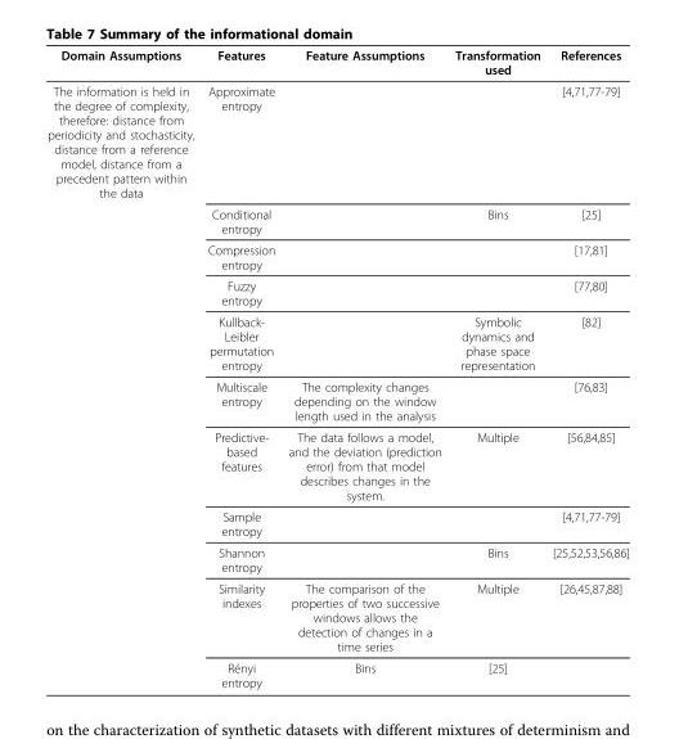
<table><thead><tr><td>Domain Assumptions</td><td>Features</td><td>Feature Assumptions</td><td>Transformation used</td><td>References</td></tr></thead><tbody><tr><td rowspan="11">The information is held in the degree of complexity, therefore: distance from periodicity and stochasticity, distance from a reference model, distance from a precedent pattern within the data</td><td>Approximate entropy</td><td></td><td></td><td>[4,71,77-79]</td></tr><tr><td>Conditional entropy</td><td></td><td>Bins</td><td>[25]</td></tr><tr><td>Compression entropy</td><td></td><td></td><td>[17,81]</td></tr><tr><td>Fuzzy entropy</td><td></td><td></td><td>[77,80]</td></tr><tr><td>Kullback- Leibler permutation entropy</td><td></td><td>Symbolic dynamics and phase space representation</td><td>[82]</td></tr><tr><td>Multiscale entropy</td><td>The complexity changes depending on the window length used in the analysis</td><td></td><td>[76,83]</td></tr><tr><td>Predictive- based features</td><td>The data follows a model, and the deviation (prediction error) from that model describes changes in the system.</td><td>Multiple</td><td>[56,84,85]</td></tr><tr><td>Sample entropy</td><td></td><td></td><td>[4,71,77-79]</td></tr><tr><td>Shannon entropy</td><td></td><td>Bins</td><td>[25,52,53,56,86]</td></tr><tr><td>Similarity indexes</td><td>The comparison of the properties of two successive windows allows the detection of changes in a time series</td><td>Multiple</td><td>[26,45,87,88]</td></tr><tr><td>Rényi entropy</td><td>Bins</td><td>[25]</td><td></td></tr></tbody></table>